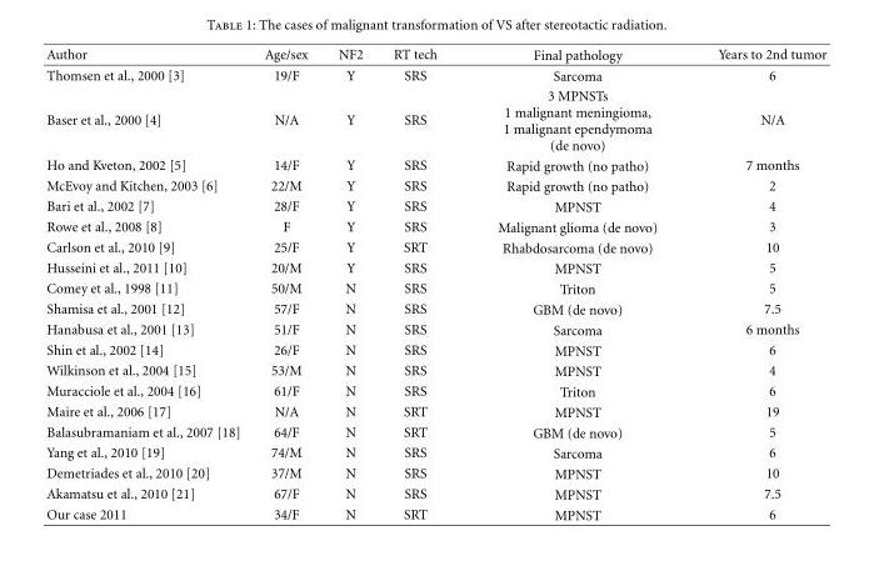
<table><thead><tr><td>Author</td><td>Age/sex</td><td>NF2</td><td>RT tech</td><td>Final pathology</td><td>Years to 2nd tumor</td></tr></thead><tbody><tr><td>Thomsen et al., 2000 [3]</td><td>19/F</td><td>Y</td><td>SRS</td><td>Sarcoma</td><td>6</td></tr><tr><td>Baser et al., 2000 [4]</td><td>N/A</td><td>Y</td><td>SRS</td><td>3 MPNSTs 1 malignant meningioma, 1 malignant ependymoma (de novo)</td><td>N/A</td></tr><tr><td>Ho and Kveton, 2002 [5]</td><td>14/F</td><td>Y</td><td>SRS</td><td>Rapid growth (no patho)</td><td>7 months</td></tr><tr><td>McEvoy and Kitchen, 2003 [6]</td><td>22/M</td><td>Y</td><td>SRS</td><td>Rapid growth (no patho)</td><td>2</td></tr><tr><td>Bari et al., 2002 [7]</td><td>28/F</td><td>Y</td><td>SRS</td><td>MPNST</td><td>4</td></tr><tr><td>Rowe et al., 2008 [8]</td><td>F</td><td>Y</td><td>SRS</td><td>Malignant glioma (de novo)</td><td>3</td></tr><tr><td>Carlson et al., 2010 [9]</td><td>25/F</td><td>Y</td><td>SRT</td><td>Rhabdosarcoma (de novo)</td><td>10</td></tr><tr><td>Husseini et al., 2011 [10]</td><td>20/M</td><td>Y</td><td>SRS</td><td>MPNST</td><td>5</td></tr><tr><td>Comey et al., 1998 [11]</td><td>50/M</td><td>N</td><td>SRS</td><td>Triton</td><td>5</td></tr><tr><td>Shamisa et al., 2001 [12]</td><td>57/F</td><td>N</td><td>SRS</td><td>GBM (de novo)</td><td>7.5</td></tr><tr><td>Hanabusa et al., 2001 [13]</td><td>51/F</td><td>N</td><td>SRS</td><td>Sarcoma</td><td>6 months</td></tr><tr><td>Shin et al., 2002 [14]</td><td>26/F</td><td>N</td><td>SRS</td><td>MPNST</td><td>6</td></tr><tr><td>Wilkinson et al., 2004 [15]</td><td>53/M</td><td>N</td><td>SRS</td><td>MPNST</td><td>4</td></tr><tr><td>Muracciole et al., 2004 [16]</td><td>61/F</td><td>N</td><td>SRS</td><td>Triton</td><td>6</td></tr><tr><td>Maire et al., 2006 [17]</td><td>N/A</td><td>N</td><td>SRT</td><td>MPNST</td><td>19</td></tr><tr><td>Balasubramaniam et al., 2007 [18]</td><td>64/F</td><td>N</td><td>SRT</td><td>GBM (de novo)</td><td>5</td></tr><tr><td>Yang et al., 2010 [19]</td><td>74/M</td><td>N</td><td>SRS</td><td>Sarcoma</td><td>6</td></tr><tr><td>Demetriades et al., 2010 [20]</td><td>37/M</td><td>N</td><td>SRS</td><td>MPNST</td><td>10</td></tr><tr><td>Akamatsu et al., 2010 [21]</td><td>67/F</td><td>N</td><td>SRS</td><td>MPNST</td><td>7.5</td></tr><tr><td>Our case 2011</td><td>34/F</td><td>N</td><td>SRT</td><td>MPNST</td><td>6</td></tr></tbody></table>